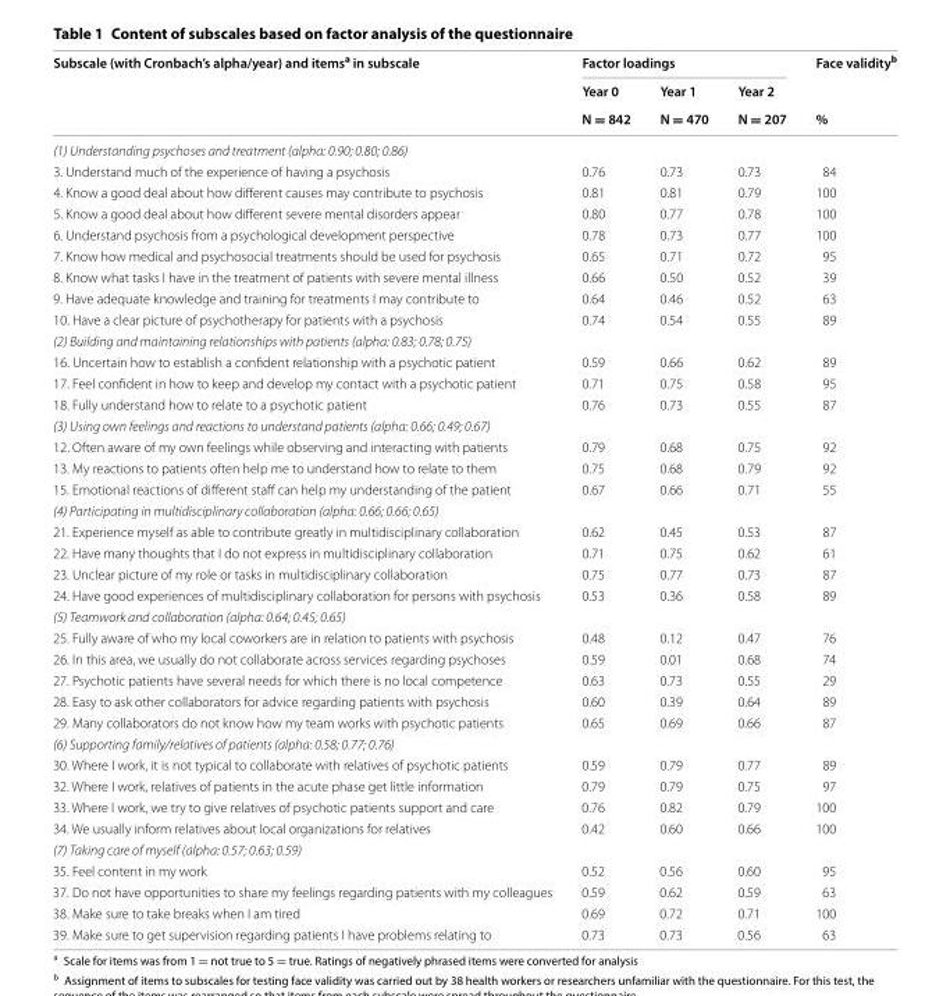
<table><thead><tr><td rowspan="3">Subscale (with Cronbach’s alpha/year) and items<sup>a</sup> in subscale</td><td colspan="3">Factor loadings</td><td rowspan="3">Face validity<sup>b</sup> %</td></tr><tr><td rowspan="2">Year 0 N = 842</td><td rowspan="2">Year 1 N = 470</td><td rowspan="2">Year 2 N = 207</td></tr><tr></tr></thead><tbody><tr><td colspan="5">(1) Understanding psychoses and treatment (alpha: 0.90; 0.80; 0.86)</td></tr><tr><td>3. Understand much of the experience of having a psychosis</td><td>0.76</td><td>0.73</td><td>0.73</td><td>84</td></tr><tr><td>4. Know a good deal about how different causes may contribute to psychosis</td><td>0.81</td><td>0.81</td><td>0.79</td><td>100</td></tr><tr><td>5. Know a good deal about how different severe mental disorders appear</td><td>0.80</td><td>0.77</td><td>0.78</td><td>100</td></tr><tr><td>6. Understand psychosis from a psychological development perspective</td><td>0.78</td><td>0.73</td><td>0.77</td><td>100</td></tr><tr><td>7. Know how medical and psychosocial treatments should be used for psychosis</td><td>0.65</td><td>0.71</td><td>0.72</td><td>95</td></tr><tr><td>8. Know what tasks I have in the treatment of patients with severe mental illness</td><td>0.66</td><td>0.50</td><td>0.52</td><td>39</td></tr><tr><td>9. Have adequate knowledge and training for treatments I may contribute to</td><td>0.64</td><td>0.46</td><td>0.52</td><td>63</td></tr><tr><td>10. Have a clear picture of psychotherapy for patients with a psychosis</td><td>0.74</td><td>0.54</td><td>0.55</td><td>89</td></tr><tr><td colspan="5">(2) Building and maintaining relationships with patients (alpha: 0.83; 0.78; 0.75)</td></tr><tr><td>16. Uncertain how to establish a confident relationship with a psychotic patient</td><td>0.59</td><td>0.66</td><td>0.62</td><td>89</td></tr><tr><td>17. Feel confident in how to keep and develop my contact with a psychotic patient</td><td>0.71</td><td>0.75</td><td>0.58</td><td>95</td></tr><tr><td>18. Fully understand how to relate to a psychotic patient</td><td>0.76</td><td>0.73</td><td>0.55</td><td>87</td></tr><tr><td colspan="5">(3) Using own feelings and reactions to understand patients (alpha: 0.66; 0.49; 0.67)</td></tr><tr><td>12. Often aware of my own feelings while observing and interacting with patients</td><td>0.79</td><td>0.68</td><td>0.75</td><td>92</td></tr><tr><td>13. My reactions to patients often help me to understand how to relate to them</td><td>0.75</td><td>0.68</td><td>0.79</td><td>92</td></tr><tr><td>15. Emotional reactions of different staff can help my understanding of the patient</td><td>0.67</td><td>0.66</td><td>0.71</td><td>55</td></tr><tr><td colspan="5">(4) Participating in multidisciplinary collaboration (alpha: 0.66; 0.66; 0.65)</td></tr><tr><td>21. Experience myself as able to contribute greatly in multidisciplinary collaboration</td><td>0.62</td><td>0.45</td><td>0.53</td><td>87</td></tr><tr><td>22. Have many thoughts that I do not express in multidisciplinary collaboration</td><td>0.71</td><td>0.75</td><td>0.62</td><td>61</td></tr><tr><td>23. Unclear picture of my role or tasks in multidisciplinary collaboration</td><td>0.75</td><td>0.77</td><td>0.73</td><td>87</td></tr><tr><td>24. Have good experiences of multidisciplinary collaboration for persons with psychosis</td><td>0.53</td><td>0.36</td><td>0.58</td><td>89</td></tr><tr><td colspan="5">(5) Teamwork and collaboration (alpha: 0.64; 0.45; 0.65)</td></tr><tr><td>25. Fully aware of who my local coworkers are in relation to patients with psychosis</td><td>0.48</td><td>0.12</td><td>0.47</td><td>76</td></tr><tr><td>26. In this area, we usually do not collaborate across services regarding psychoses</td><td>0.59</td><td>0.01</td><td>0.68</td><td>74</td></tr><tr><td>27. Psychotic patients have several needs for which there is no local competence</td><td>0.63</td><td>0.73</td><td>0.55</td><td>29</td></tr><tr><td>28. Easy to ask other collaborators for advice regarding patients with psychosis</td><td>0.60</td><td>0.39</td><td>0.64</td><td>89</td></tr><tr><td>29. Many collaborators do not know how my team works with psychotic patients</td><td>0.65</td><td>0.69</td><td>0.66</td><td>87</td></tr><tr><td colspan="5">(6) Supporting family/relatives of patients (alpha: 0.58; 0.77; 0.76)</td></tr><tr><td>30. Where I work, it is not typical to collaborate with relatives of psychotic patients</td><td>0.59</td><td>0.79</td><td>0.77</td><td>89</td></tr><tr><td>32. Where I work, relatives of patients in the acute phase get little information</td><td>0.79</td><td>0.79</td><td>0.75</td><td>97</td></tr><tr><td>33. Where I work, we try to give relatives of psychotic patients support and care</td><td>0.76</td><td>0.82</td><td>0.79</td><td>100</td></tr><tr><td>34. We usually inform relatives about local organizations for relatives</td><td>0.42</td><td>0.60</td><td>0.66</td><td>100</td></tr><tr><td colspan="5">(7) Taking care of myself (alpha: 0.57; 0.63; 0.59)</td></tr><tr><td>35. Feel content in my work</td><td>0.52</td><td>0.56</td><td>0.60</td><td>95</td></tr><tr><td>37. Do not have opportunities to share my feelings regarding patients with my colleagues</td><td>0.59</td><td>0.62</td><td>0.59</td><td>63</td></tr><tr><td>38. Make sure to take breaks when I am tired</td><td>0.69</td><td>0.72</td><td>0.71</td><td>100</td></tr><tr><td>39. Make sure to get supervision regarding patients I have problems relating to</td><td>0.73</td><td>0.73</td><td>0.56</td><td>63</td></tr></tbody></table>